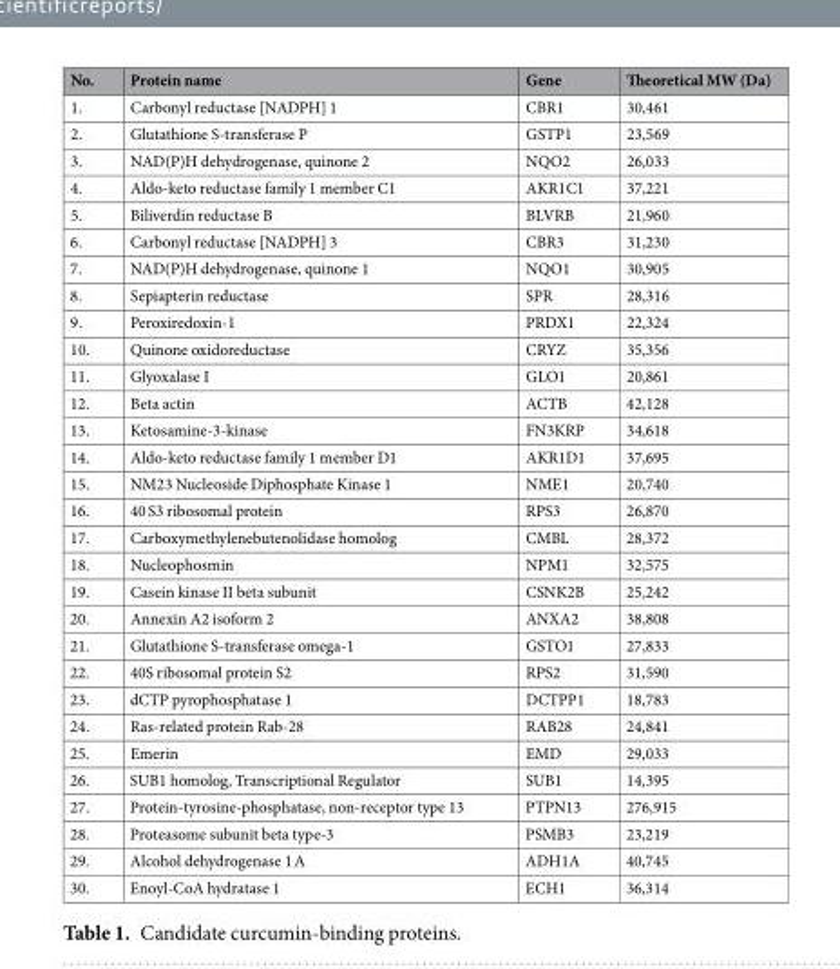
<table><thead><tr><td>No.</td><td>Protein name</td><td>Gene</td><td>Theoretical MW (Da)</td></tr></thead><tbody><tr><td>1.</td><td>Carbonyl reductase [NADPH] 1</td><td>CBR1</td><td>30,461</td></tr><tr><td>2.</td><td>Glutathione S-transferase P</td><td>GSTP1</td><td>23,569</td></tr><tr><td>3.</td><td>NAD(P)H dehydrogenase, quinone 2</td><td>NQO2</td><td>26,033</td></tr><tr><td>4.</td><td>Aldo-keto reductase family 1 member C1</td><td>AKR1C1</td><td>37,221</td></tr><tr><td>5.</td><td>Biliverdin reductase B</td><td>BLVRB</td><td>21,960</td></tr><tr><td>6.</td><td>Carbonyl reductase [NADPH] 3</td><td>CBR3</td><td>31,230</td></tr><tr><td>7.</td><td>NAD(P)H dehydrogenase, quinone 1</td><td>NQO1</td><td>30,905</td></tr><tr><td>8.</td><td>Sepiapterin reductase</td><td>SPR</td><td>28,316</td></tr><tr><td>9.</td><td>Peroxiredoxin-1</td><td>PRDX1</td><td>22,324</td></tr><tr><td>10.</td><td>Quinone oxidoreductase</td><td>CRYZ</td><td>35,356</td></tr><tr><td>11.</td><td>Glyoxalase I</td><td>GLO1</td><td>20,861</td></tr><tr><td>12.</td><td>Beta actin</td><td>ACTB</td><td>42,128</td></tr><tr><td>13.</td><td>Ketosamine-3-kinase</td><td>FN3KRP</td><td>34,618</td></tr><tr><td>14.</td><td>Aldo-keto reductase family 1 member D1</td><td>AKR1D1</td><td>37,695</td></tr><tr><td>15.</td><td>NM23 Nucleoside Diphosphate Kinase 1</td><td>NME1</td><td>20,740</td></tr><tr><td>16.</td><td>40 S3 ribosomal protein</td><td>RPS3</td><td>26,870</td></tr><tr><td>17.</td><td>Carboxymethylenebutenolidase homolog</td><td>CMBL</td><td>28,372</td></tr><tr><td>18.</td><td>Nucleophosmin</td><td>NPM1</td><td>32,575</td></tr><tr><td>19.</td><td>Casein kinase II beta subunit</td><td>CSNK2B</td><td>25,242</td></tr><tr><td>20.</td><td>Annexin A2 isoform 2</td><td>ANXA2</td><td>38,808</td></tr><tr><td>21.</td><td>Glutathione S-transferase omega-1</td><td>GSTO1</td><td>27,833</td></tr><tr><td>22.</td><td>40S ribosomal protein S2</td><td>RPS2</td><td>31,590</td></tr><tr><td>23.</td><td>dCTP pyrophosphatase 1</td><td>DCTPP1</td><td>18,783</td></tr><tr><td>24.</td><td>Ras-related protein Rab-28</td><td>RAB28</td><td>24,841</td></tr><tr><td>25.</td><td>Emerin</td><td>EMD</td><td>29,033</td></tr><tr><td>26.</td><td>SUB1 homolog, Transcriptional Regulator</td><td>SUB1</td><td>14,395</td></tr><tr><td>27.</td><td>Protein-tyrosine-phosphatase, non-receptor type 13</td><td>PTPN13</td><td>276,915</td></tr><tr><td>28.</td><td>Proteasome subunit beta type-3</td><td>PSMB3</td><td>23,219</td></tr><tr><td>29.</td><td>Alcohol dehydrogenase 1 A</td><td>ADH1A</td><td>40,745</td></tr><tr><td>30.</td><td>Enoyl-CoA hydratase 1</td><td>ECH1</td><td>36,314</td></tr></tbody></table>